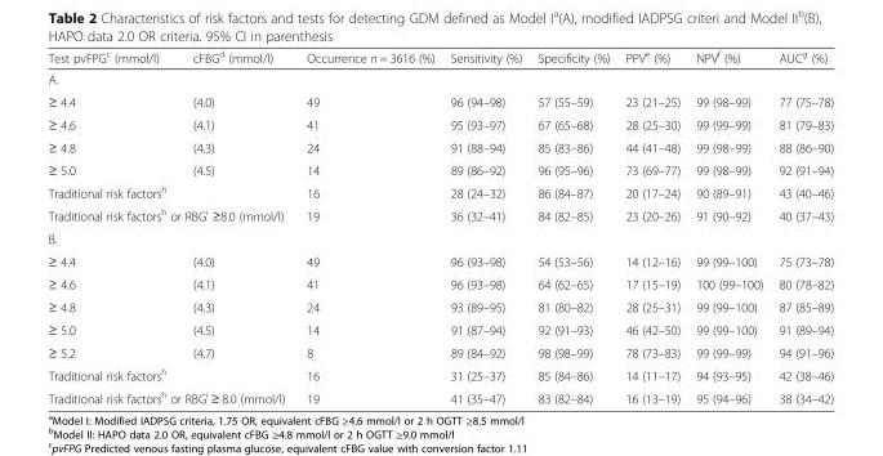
<table><thead><tr><td>Test pvFPG<sup>c</sup> (mmol/l)</td><td>cFBG<sup>d</sup> (mmol/l)</td><td>Occurrence n = 3616 (%)</td><td>Sensitivity (%)</td><td>Specificity (%)</td><td>PPV<sup>e</sup> (%)</td><td>NPV<sup>f</sup> (%)</td><td>AUC<sup>g</sup> (%)</td></tr></thead><tbody><tr><td colspan="8">A.</td></tr><tr><td>≥ 4.4</td><td>(4.0)</td><td>49</td><td>96 (94–98)</td><td>57 (55–59)</td><td>23 (21–25)</td><td>99 (98–99)</td><td>77 (75–78)</td></tr><tr><td>≥ 4.6</td><td>(4.1)</td><td>41</td><td>95 (93–97)</td><td>67 (65–68)</td><td>28 (25–30)</td><td>99 (99–99)</td><td>81 (79–83)</td></tr><tr><td>≥ 4.8</td><td>(4.3)</td><td>24</td><td>91 (88–94)</td><td>85 (83–86)</td><td>44 (41–48)</td><td>99 (98–99)</td><td>88 (86–90)</td></tr><tr><td>≥ 5.0</td><td>(4.5)</td><td>14</td><td>89 (86–92)</td><td>96 (95–96)</td><td>73 (69–77)</td><td>99 (98–99)</td><td>92 (91–94)</td></tr><tr><td colspan="2">Traditional risk factors<sup>h</sup></td><td>16</td><td>28 (24–32)</td><td>86 (84–87)</td><td>20 (17–24)</td><td>90 (89–91)</td><td>43 (40–46)</td></tr><tr><td colspan="2">Traditional risk factors<sup>h</sup> or RBG<sup>i</sup> ≥8.0 (mmol/l)</td><td>19</td><td>36 (32–41)</td><td>84 (82–85)</td><td>23 (20–26)</td><td>91 (90–92)</td><td>40 (37–43)</td></tr><tr><td colspan="8">B.</td></tr><tr><td>≥ 4.4</td><td>(4.0)</td><td>49</td><td>96 (93–98)</td><td>54 (53–56)</td><td>14 (12–16)</td><td>99 (99–100)</td><td>75 (73–78)</td></tr><tr><td>≥ 4.6</td><td>(4.1)</td><td>41</td><td>96 (93–98)</td><td>64 (62–65)</td><td>17 (15–19)</td><td>100 (99–100)</td><td>80 (78–82)</td></tr><tr><td>≥ 4.8</td><td>(4.3)</td><td>24</td><td>93 (89–95)</td><td>81 (80–82)</td><td>28 (25–31)</td><td>99 (99–100)</td><td>87 (85–89)</td></tr><tr><td>≥ 5.0</td><td>(4.5)</td><td>14</td><td>91 (87–94)</td><td>92 (91–93)</td><td>46 (42–50)</td><td>99 (99–100)</td><td>91 (89–94)</td></tr><tr><td>≥ 5.2</td><td>(4.7)</td><td>8</td><td>89 (84–92)</td><td>98 (98–99)</td><td>78 (73–83)</td><td>99 (99–99)</td><td>94 (91–96)</td></tr><tr><td colspan="2">Traditional risk factors<sup>h</sup></td><td>16</td><td>31 (25–37)</td><td>85 (84–86)</td><td>14 (11–17)</td><td>94 (93–95)</td><td>42 (38–46)</td></tr><tr><td colspan="2">Traditional risk factors<sup>h</sup> or RBG<sup>i</sup> ≥ 8.0 (mmol/l)</td><td>19</td><td>41 (35–47)</td><td>83 (82–84)</td><td>16 (13–19)</td><td>95 (94–96)</td><td>38 (34–42)</td></tr></tbody></table>